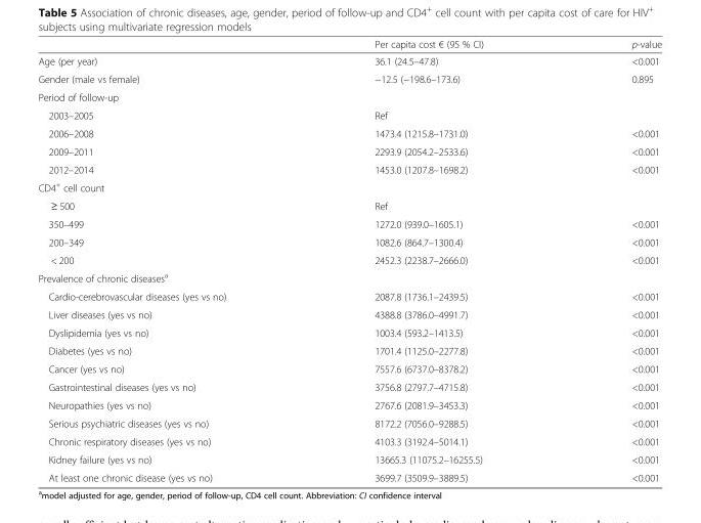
<table><thead><tr><td></td><td>Per capita cost € (95 % CI)</td><td>p-value</td></tr></thead><tbody><tr><td>Age (per year)</td><td>36.1 (24.5–47.8)</td><td>&lt;0.001</td></tr><tr><td>Gender (male vs female)</td><td>−12.5 (−198.6–173.6)</td><td>0.895</td></tr><tr><td colspan="3">Period of follow-up</td></tr><tr><td>2003–2005</td><td>Ref</td><td></td></tr><tr><td>2006–2008</td><td>1473.4 (1215.8–1731.0)</td><td>&lt;0.001</td></tr><tr><td>2009–2011</td><td>2293.9 (2054.2–2533.6)</td><td>&lt;0.001</td></tr><tr><td>2012–2014</td><td>1453.0 (1207.8–1698.2)</td><td>&lt;0.001</td></tr><tr><td colspan="3">CD4<sup>+</sup> cell count</td></tr><tr><td>≥ 500</td><td>Ref</td><td></td></tr><tr><td>350–499</td><td>1272.0 (939.0–1605.1)</td><td>&lt;0.001</td></tr><tr><td>200–349</td><td>1082.6 (864.7–1300.4)</td><td>&lt;0.001</td></tr><tr><td>&lt; 200</td><td>2452.3 (2238.7–2666.0)</td><td>&lt;0.001</td></tr><tr><td colspan="3">Prevalence of chronic diseases<sup>a</sup></td></tr><tr><td>Cardio-cerebrovascular diseases (yes vs no)</td><td>2087.8 (1736.1–2439.5)</td><td>&lt;0.001</td></tr><tr><td>Liver diseases (yes vs no)</td><td>4388.8 (3786.0–4991.7)</td><td>&lt;0.001</td></tr><tr><td>Dyslipidemia (yes vs no)</td><td>1003.4 (593.2–1413.5)</td><td>&lt;0.001</td></tr><tr><td>Diabetes (yes vs no)</td><td>1701.4 (1125.0–2277.8)</td><td>&lt;0.001</td></tr><tr><td>Cancer (yes vs no)</td><td>7557.6 (6737.0–8378.2)</td><td>&lt;0.001</td></tr><tr><td>Gastrointestinal diseases (yes vs no)</td><td>3756.8 (2797.7–4715.8)</td><td>&lt;0.001</td></tr><tr><td>Neuropathies (yes vs no)</td><td>2767.6 (2081.9–3453.3)</td><td>&lt;0.001</td></tr><tr><td>Serious psychiatric diseases (yes vs no)</td><td>8172.2 (7056.0–9288.5)</td><td>&lt;0.001</td></tr><tr><td>Chronic respiratory diseases (yes vs no)</td><td>4103.3 (3192.4–5014.1)</td><td>&lt;0.001</td></tr><tr><td>Kidney failure (yes vs no)</td><td>13665.3 (11075.2–16255.5)</td><td>&lt;0.001</td></tr><tr><td>At least one chronic disease (yes vs no)</td><td>3699.7 (3509.9–3889.5)</td><td>&lt;0.001</td></tr></tbody></table>